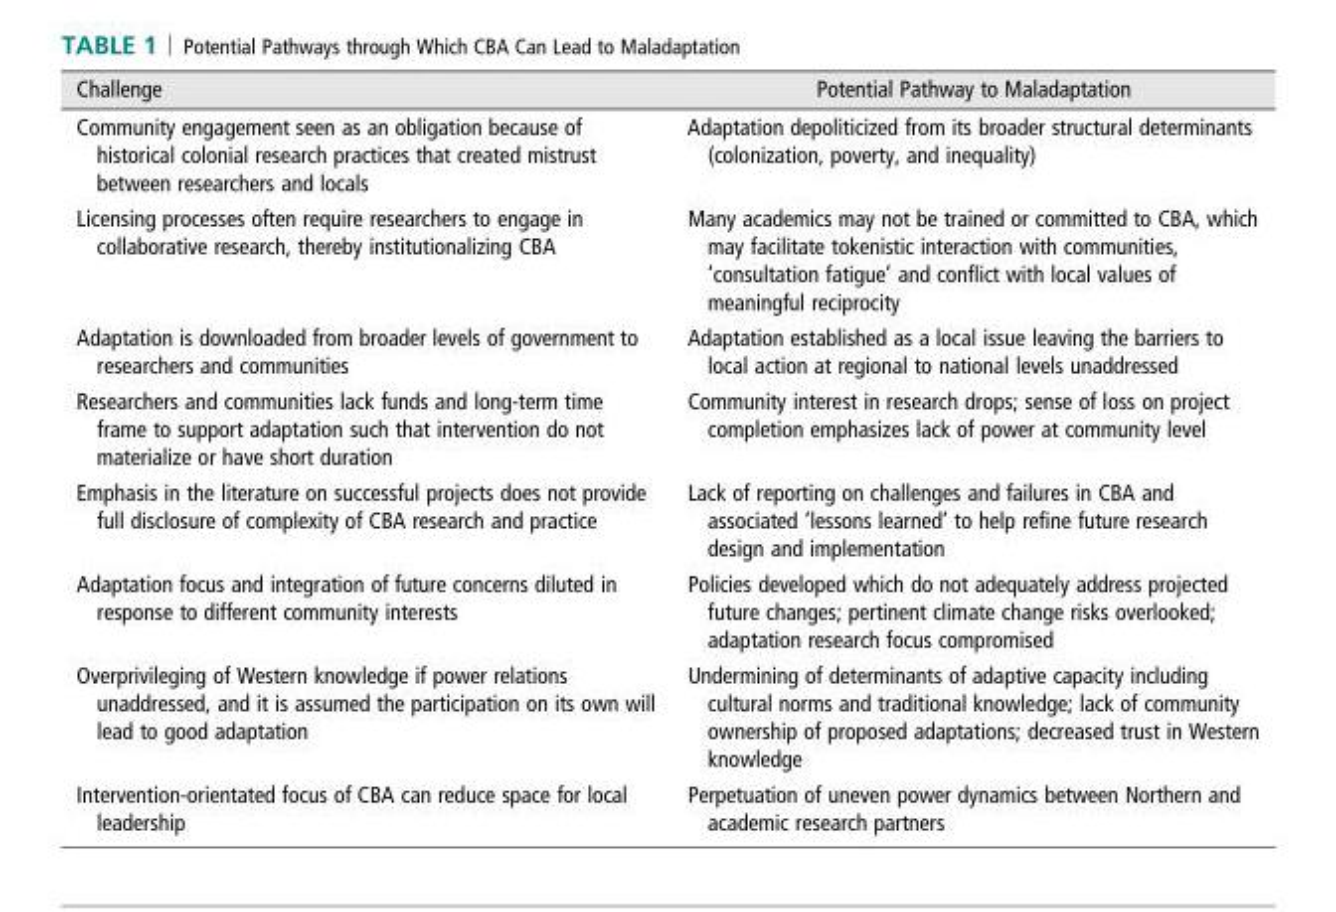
<table><thead><tr><td>Challenge</td><td>Potential Pathway to Maladaptation</td></tr></thead><tbody><tr><td>Community engagement seen as an obligation because of historical colonial research practices that created mistrust between researchers and locals</td><td>Adaptation depoliticized from its broader structural determinants (colonization, poverty, and inequality)</td></tr><tr><td>Licensing processes often require researchers to engage in collaborative research, thereby institutionalizing CBA</td><td>Many academics may not be trained or committed to CBA, which may facilitate tokenistic interaction with communities, ‘consultation fatigue’ and conflict with local values of meaningful reciprocity</td></tr><tr><td>Adaptation is downloaded from broader levels of government to researchers and communities</td><td>Adaptation established as a local issue leaving the barriers to local action at regional to national levels unaddressed</td></tr><tr><td>Researchers and communities lack funds and long-term time frame to support adaptation such that intervention do not materialize or have short duration</td><td>Community interest in research drops; sense of loss on project completion emphasizes lack of power at community level</td></tr><tr><td>Emphasis in the literature on successful projects does not provide full disclosure of complexity of CBA research and practice</td><td>Lack of reporting on challenges and failures in CBA and associated ‘lessons learned’ to help refine future research design and implementation</td></tr><tr><td>Adaptation focus and integration of future concerns diluted in response to different community interests</td><td>Policies developed which do not adequately address projected future changes; pertinent climate change risks overlooked; adaptation research focus compromised</td></tr><tr><td>Overprivileging of Western knowledge if power relations unaddressed, and it is assumed the participation on its own will lead to good adaptation</td><td>Undermining of determinants of adaptive capacity including cultural norms and traditional knowledge; lack of community ownership of proposed adaptations; decreased trust in Western knowledge</td></tr><tr><td>Intervention-orientated focus of CBA can reduce space for local leadership</td><td>Perpetuation of uneven power dynamics between Northern and academic research partners</td></tr></tbody></table>